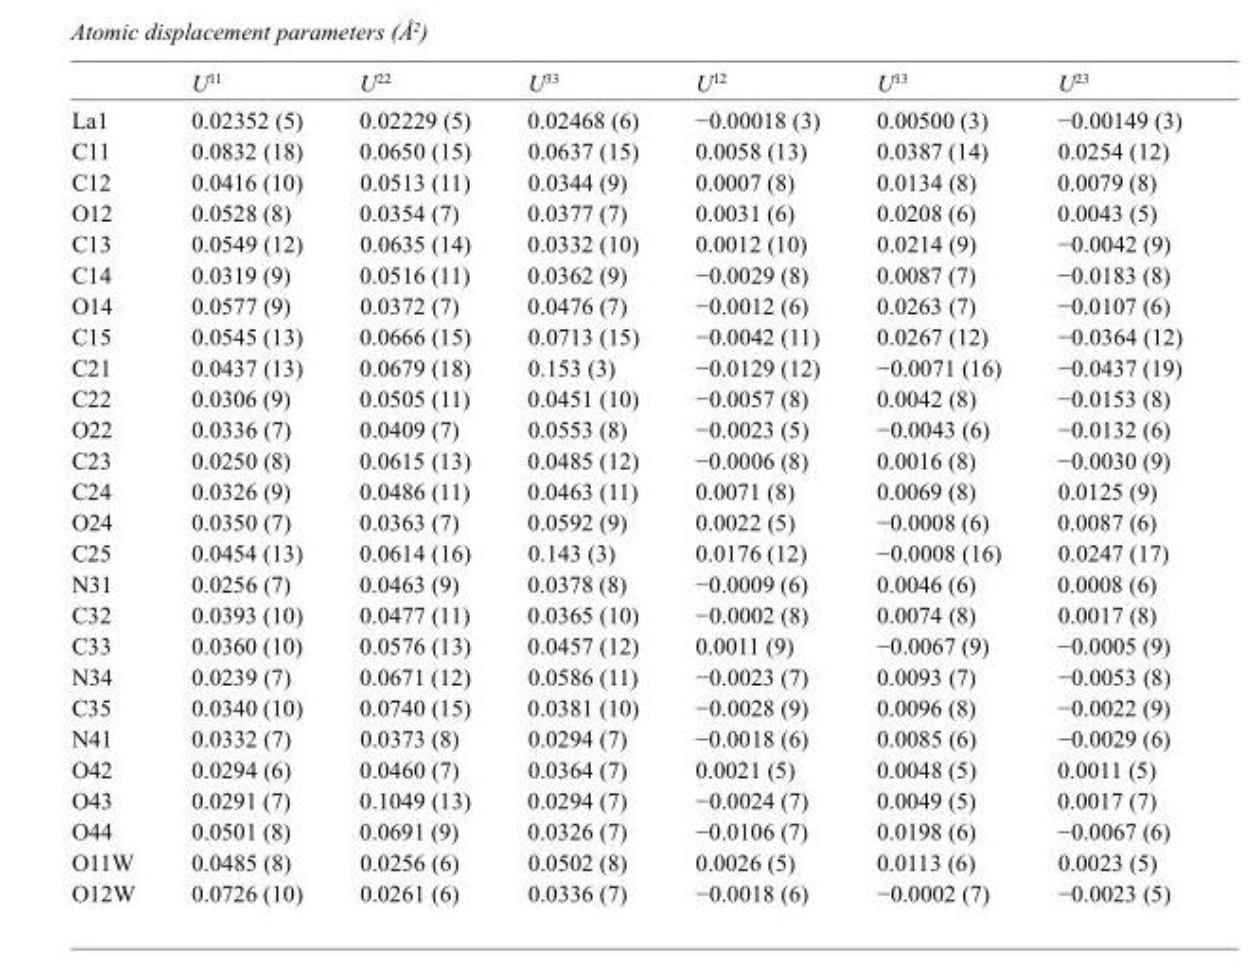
<table><thead><tr><td></td><td>U<sup>11</sup></td><td>U<sup>22</sup></td><td>U<sup>33</sup></td><td>U<sup>12</sup></td><td>U<sup>13</sup></td><td>U<sup>23</sup></td></tr></thead><tbody><tr><td>La1</td><td>0.02352 (5)</td><td>0.02229 (5)</td><td>0.02468 (6)</td><td>−0.00018 (3)</td><td>0.00500 (3)</td><td>−0.00149 (3)</td></tr><tr><td>C11</td><td>0.0832 (18)</td><td>0.0650 (15)</td><td>0.0637 (15)</td><td>0.0058 (13)</td><td>0.0387 (14)</td><td>0.0254 (12)</td></tr><tr><td>C12</td><td>0.0416 (10)</td><td>0.0513 (11)</td><td>0.0344 (9)</td><td>0.0007 (8)</td><td>0.0134 (8)</td><td>0.0079 (8)</td></tr><tr><td>O12</td><td>0.0528 (8)</td><td>0.0354 (7)</td><td>0.0377 (7)</td><td>0.0031 (6)</td><td>0.0208 (6)</td><td>0.0043 (5)</td></tr><tr><td>C13</td><td>0.0549 (12)</td><td>0.0635 (14)</td><td>0.0332 (10)</td><td>0.0012 (10)</td><td>0.0214 (9)</td><td>−0.0042 (9)</td></tr><tr><td>C14</td><td>0.0319 (9)</td><td>0.0516 (11)</td><td>0.0362 (9)</td><td>−0.0029 (8)</td><td>0.0087 (7)</td><td>−0.0183 (8)</td></tr><tr><td>O14</td><td>0.0577 (9)</td><td>0.0372 (7)</td><td>0.0476 (7)</td><td>−0.0012 (6)</td><td>0.0263 (7)</td><td>−0.0107 (6)</td></tr><tr><td>C15</td><td>0.0545 (13)</td><td>0.0666 (15)</td><td>0.0713 (15)</td><td>−0.0042 (11)</td><td>0.0267 (12)</td><td>−0.0364 (12)</td></tr><tr><td>C21</td><td>0.0437 (13)</td><td>0.0679 (18)</td><td>0.153 (3)</td><td>−0.0129 (12)</td><td>−0.0071 (16)</td><td>−0.0437 (19)</td></tr><tr><td>C22</td><td>0.0306 (9)</td><td>0.0505 (11)</td><td>0.0451 (10)</td><td>−0.0057 (8)</td><td>0.0042 (8)</td><td>−0.0153 (8)</td></tr><tr><td>O22</td><td>0.0336 (7)</td><td>0.0409 (7)</td><td>0.0553 (8)</td><td>−0.0023 (5)</td><td>−0.0043 (6)</td><td>−0.0132 (6)</td></tr><tr><td>C23</td><td>0.0250 (8)</td><td>0.0615 (13)</td><td>0.0485 (12)</td><td>−0.0006 (8)</td><td>0.0016 (8)</td><td>−0.0030 (9)</td></tr><tr><td>C24</td><td>0.0326 (9)</td><td>0.0486 (11)</td><td>0.0463 (11)</td><td>0.0071 (8)</td><td>0.0069 (8)</td><td>0.0125 (9)</td></tr><tr><td>O24</td><td>0.0350 (7)</td><td>0.0363 (7)</td><td>0.0592 (9)</td><td>0.0022 (5)</td><td>−0.0008 (6)</td><td>0.0087 (6)</td></tr><tr><td>C25</td><td>0.0454 (13)</td><td>0.0614 (16)</td><td>0.143 (3)</td><td>0.0176 (12)</td><td>−0.0008 (16)</td><td>0.0247 (17)</td></tr><tr><td>N31</td><td>0.0256 (7)</td><td>0.0463 (9)</td><td>0.0378 (8)</td><td>−0.0009 (6)</td><td>0.0046 (6)</td><td>0.0008 (6)</td></tr><tr><td>C32</td><td>0.0393 (10)</td><td>0.0477 (11)</td><td>0.0365 (10)</td><td>−0.0002 (8)</td><td>0.0074 (8)</td><td>0.0017 (8)</td></tr><tr><td>C33</td><td>0.0360 (10)</td><td>0.0576 (13)</td><td>0.0457 (12)</td><td>0.0011 (9)</td><td>−0.0067 (9)</td><td>−0.0005 (9)</td></tr><tr><td>N34</td><td>0.0239 (7)</td><td>0.0671 (12)</td><td>0.0586 (11)</td><td>−0.0023 (7)</td><td>0.0093 (7)</td><td>−0.0053 (8)</td></tr><tr><td>C35</td><td>0.0340 (10)</td><td>0.0740 (15)</td><td>0.0381 (10)</td><td>−0.0028 (9)</td><td>0.0096 (8)</td><td>−0.0022 (9)</td></tr><tr><td>N41</td><td>0.0332 (7)</td><td>0.0373 (8)</td><td>0.0294 (7)</td><td>−0.0018 (6)</td><td>0.0085 (6)</td><td>−0.0029 (6)</td></tr><tr><td>O42</td><td>0.0294 (6)</td><td>0.0460 (7)</td><td>0.0364 (7)</td><td>0.0021 (5)</td><td>0.0048 (5)</td><td>0.0011 (5)</td></tr><tr><td>O43</td><td>0.0291 (7)</td><td>0.1049 (13)</td><td>0.0294 (7)</td><td>−0.0024 (7)</td><td>0.0049 (5)</td><td>0.0017 (7)</td></tr><tr><td>O44</td><td>0.0501 (8)</td><td>0.0691 (9)</td><td>0.0326 (7)</td><td>−0.0106 (7)</td><td>0.0198 (6)</td><td>−0.0067 (6)</td></tr><tr><td>O11W</td><td>0.0485 (8)</td><td>0.0256 (6)</td><td>0.0502 (8)</td><td>0.0026 (5)</td><td>0.0113 (6)</td><td>0.0023 (5)</td></tr><tr><td>O12W</td><td>0.0726 (10)</td><td>0.0261 (6)</td><td>0.0336 (7)</td><td>−0.0018 (6)</td><td>−0.0002 (7)</td><td>−0.0023 (5)</td></tr></tbody></table>